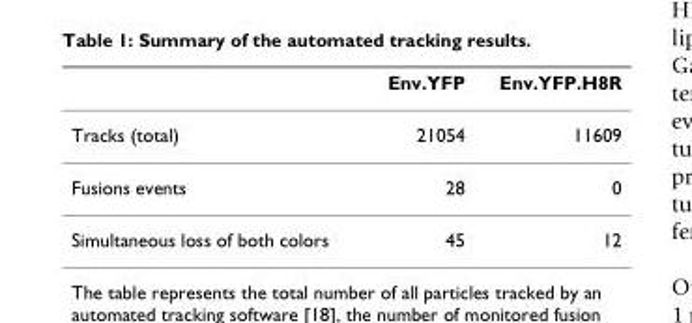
<table><thead><tr><td></td><td>Env.YFP</td><td>Env.YFP.H8R</td></tr></thead><tbody><tr><td>Tracks (total)</td><td>21054</td><td>11609</td></tr><tr><td>Fusions events</td><td>28</td><td>0</td></tr><tr><td>Simultaneous loss of both colors</td><td>45</td><td>12</td></tr></tbody></table>